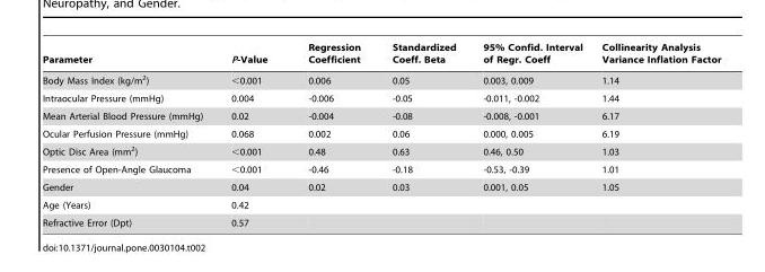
<table><thead><tr><td>Parameter</td><td>P-Value</td><td>Regression Coefficient</td><td>Standardized Coeff. Beta</td><td>95% Confid. Interval of Regr. Coeff</td><td>Collinearity Analysis Variance Inflation Factor</td></tr></thead><tbody><tr><td>Body Mass Index (kg/m<sup>2</sup>)</td><td>&lt;0.001</td><td>0.006</td><td>0.05</td><td>0.003, 0.009</td><td>1.14</td></tr><tr><td>Intraocular Pressure (mmHg)</td><td>0.004</td><td>-0.006</td><td>-0.05</td><td>-0.011, -0.002</td><td>1.44</td></tr><tr><td>Mean Arterial Blood Pressure (mmHg)</td><td>0.02</td><td>-0.004</td><td>-0.08</td><td>-0.008, -0.001</td><td>6.17</td></tr><tr><td>Ocular Perfusion Pressure (mmHg)</td><td>0.068</td><td>0.002</td><td>0.06</td><td>0.000, 0.005</td><td>6.19</td></tr><tr><td>Optic Disc Area (mm<sup>2</sup>)</td><td>&lt;0.001</td><td>0.48</td><td>0.63</td><td>0.46, 0.50</td><td>1.03</td></tr><tr><td>Presence of Open-Angle Glaucoma</td><td>&lt;0.001</td><td>-0.46</td><td>-0.18</td><td>-0.53, -0.39</td><td>1.01</td></tr><tr><td>Gender</td><td>0.04</td><td>0.02</td><td>0.03</td><td>0.001, 0.05</td><td>1.05</td></tr><tr><td>Age (Years)</td><td>0.42</td><td></td><td></td><td></td><td></td></tr><tr><td>Refractive Error (Dpt)</td><td>0.57</td><td></td><td></td><td></td><td></td></tr></tbody></table>